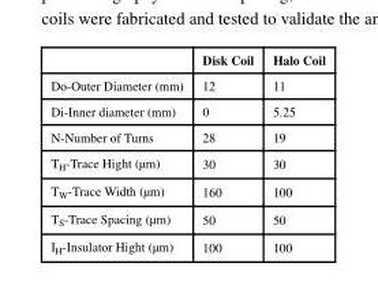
<table><thead><tr><td></td><td>Disk Coil</td><td>Halo Coil</td></tr></thead><tbody><tr><td>Do-Outer Diameter (mm)</td><td>12</td><td>11</td></tr><tr><td>Di-Inner diameter (mm)</td><td>0</td><td>5.25</td></tr><tr><td>N-Number of Turns</td><td>28</td><td>19</td></tr><tr><td>T<sub>H</sub>-Trace Hight (μm)</td><td>30</td><td>30</td></tr><tr><td>T<sub>W</sub>-Trace Width (μm)</td><td>160</td><td>100</td></tr><tr><td>T<sub>S</sub>-Trace Spacing (μm)</td><td>50</td><td>50</td></tr><tr><td>I<sub>H</sub>-Insulator Hight (μm)</td><td>100</td><td>100</td></tr></tbody></table>